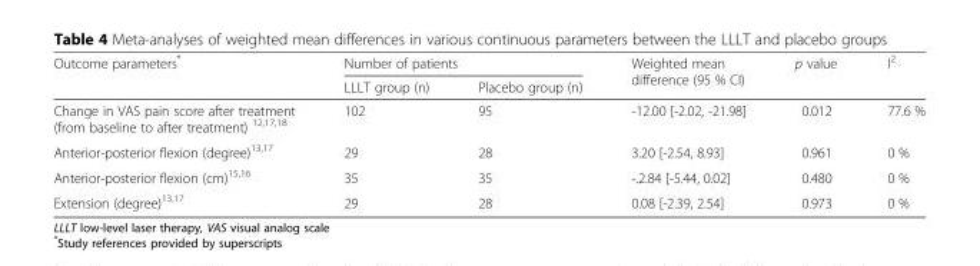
<table><thead><tr><td rowspan="2">Outcome parameters*</td><td colspan="2">Number of patients</td><td rowspan="2">Weighted mean difference (95 % CI)</td><td rowspan="2">p value</td><td rowspan="2">I<sup>2</sup></td></tr><tr><td>LLLT group (n)</td><td>Placebo group (n)</td></tr></thead><tbody><tr><td>Change in VAS pain score after treatment (from baseline to after treatment) <sup>12,17,18</sup></td><td>102</td><td>95</td><td>-12.00 [-2.02, -21.98]</td><td>0.012</td><td>77.6 %</td></tr><tr><td>Anterior-posterior flexion (degree)<sup>13,17</sup></td><td>29</td><td>28</td><td>3.20 [-2.54, 8.93]</td><td>0.961</td><td>0 %</td></tr><tr><td>Anterior-posterior flexion (cm)<sup>15,16</sup></td><td>35</td><td>35</td><td>-.2.84 [-5.44, 0.02]</td><td>0.480</td><td>0 %</td></tr><tr><td>Extension (degree)<sup>13,17</sup></td><td>29</td><td>28</td><td>0.08 [-2.39, 2.54]</td><td>0.973</td><td>0 %</td></tr></tbody></table>